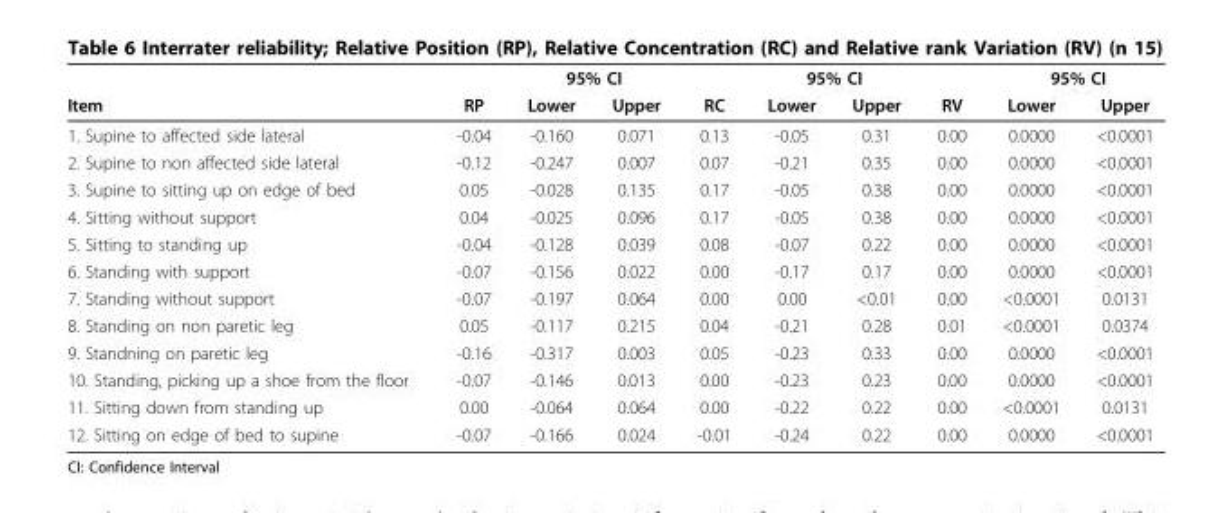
<table><thead><tr><td rowspan="2">Item</td><td rowspan="2">RP</td><td colspan="2">95% CI</td><td rowspan="2">RC</td><td colspan="2">95% CI</td><td rowspan="2">RV</td><td colspan="2">95% CI</td></tr><tr><td>Lower</td><td>Upper</td><td>Lower</td><td>Upper</td><td>Lower</td><td>Upper</td></tr></thead><tbody><tr><td>1. Supine to affected side lateral</td><td>-0.04</td><td>-0.160</td><td>0.071</td><td>0.13</td><td>-0.05</td><td>0.31</td><td>0.00</td><td>0.0000</td><td>&lt;0.0001</td></tr><tr><td>2. Supine to non affected side lateral</td><td>-0.12</td><td>-0.247</td><td>0.007</td><td>0.07</td><td>-0.21</td><td>0.35</td><td>0.00</td><td>0.0000</td><td>&lt;0.0001</td></tr><tr><td>3. Supine to sitting up on edge of bed</td><td>0.05</td><td>-0.028</td><td>0.135</td><td>0.17</td><td>-0.05</td><td>0.38</td><td>0.00</td><td>0.0000</td><td>&lt;0.0001</td></tr><tr><td>4. Sitting without support</td><td>0.04</td><td>-0.025</td><td>0.096</td><td>0.17</td><td>-0.05</td><td>0.38</td><td>0.00</td><td>0.0000</td><td>&lt;0.0001</td></tr><tr><td>5. Sitting to standing up</td><td>-0.04</td><td>-0.128</td><td>0.039</td><td>0.08</td><td>-0.07</td><td>0.22</td><td>0.00</td><td>0.0000</td><td>&lt;0.0001</td></tr><tr><td>6. Standing with support</td><td>-0.07</td><td>-0.156</td><td>0.022</td><td>0.00</td><td>-0.17</td><td>0.17</td><td>0.00</td><td>0.0000</td><td>&lt;0.0001</td></tr><tr><td>7. Standing without support</td><td>-0.07</td><td>-0.197</td><td>0.064</td><td>0.00</td><td>0.00</td><td>&lt;0.01</td><td>0.00</td><td>&lt;0.0001</td><td>0.0131</td></tr><tr><td>8. Standing on non paretic leg</td><td>0.05</td><td>-0.117</td><td>0.215</td><td>0.04</td><td>-0.21</td><td>0.28</td><td>0.01</td><td>&lt;0.0001</td><td>0.0374</td></tr><tr><td>9. Standning on paretic leg</td><td>-0.16</td><td>-0.317</td><td>0.003</td><td>0.05</td><td>-0.23</td><td>0.33</td><td>0.00</td><td>0.0000</td><td>&lt;0.0001</td></tr><tr><td>10. Standing, picking up a shoe from the floor</td><td>-0.07</td><td>-0.146</td><td>0.013</td><td>0.00</td><td>-0.23</td><td>0.23</td><td>0.00</td><td>0.0000</td><td>&lt;0.0001</td></tr><tr><td>11. Sitting down from standing up</td><td>0.00</td><td>-0.064</td><td>0.064</td><td>0.00</td><td>-0.22</td><td>0.22</td><td>0.00</td><td>&lt;0.0001</td><td>0.0131</td></tr><tr><td>12. Sitting on edge of bed to supine</td><td>-0.07</td><td>-0.166</td><td>0.024</td><td>-0.01</td><td>-0.24</td><td>0.22</td><td>0.00</td><td>0.0000</td><td>&lt;0.0001</td></tr></tbody></table>